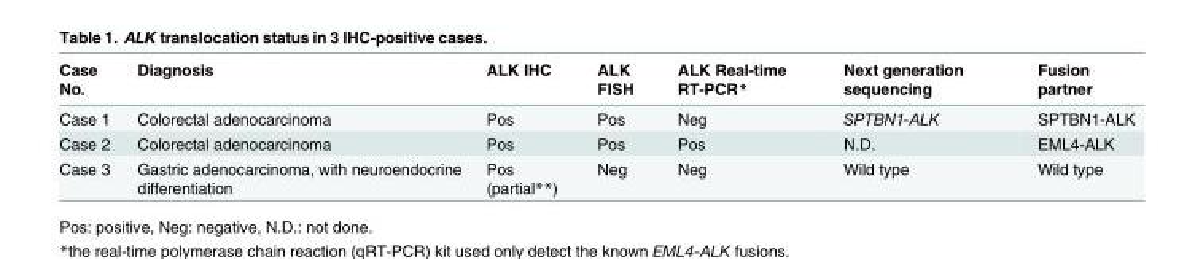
<table><thead><tr><td>Case No.</td><td>Diagnosis</td><td>ALK IHC</td><td>ALK FISH</td><td>ALK Real-time RT-PCR*</td><td>Next generation sequencing</td><td>Fusion partner</td></tr></thead><tbody><tr><td>Case 1</td><td>Colorectal adenocarcinoma</td><td>Pos</td><td>Pos</td><td>Neg</td><td>SPTBN1-ALK</td><td>SPTBN1-ALK</td></tr><tr><td>Case 2</td><td>Colorectal adenocarcinoma</td><td>Pos</td><td>Pos</td><td>Pos</td><td>N.D.</td><td>EML4-ALK</td></tr><tr><td>Case 3</td><td>Gastric adenocarcinoma, with neuroendocrine differentiation</td><td>Pos (partial**)</td><td>Neg</td><td>Neg</td><td>Wild type</td><td>Wild type</td></tr></tbody></table>